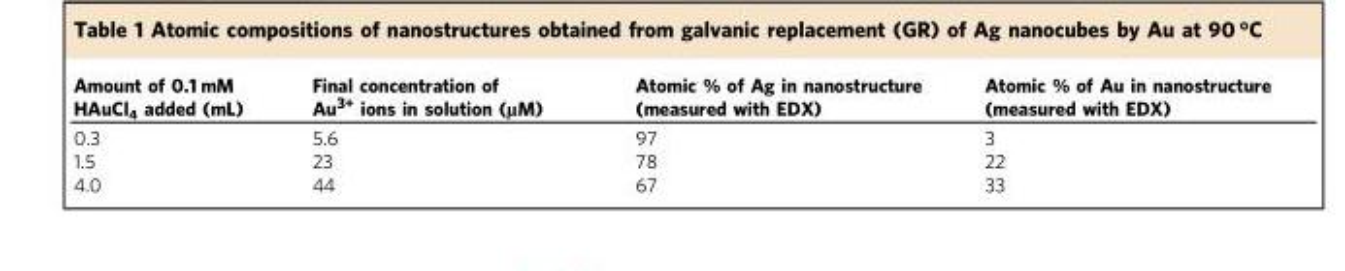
<table><thead><tr><td>Amount of 0.1 mM HAuCl<sub>4</sub> added (mL)</td><td>Final concentration of Au<sup>3+</sup> ions in solution (µM)</td><td>Atomic % of Ag in nanostructure (measured with EDX)</td><td>Atomic % of Au in nanostructure (measured with EDX)</td></tr></thead><tbody><tr><td>0.3</td><td>5.6</td><td>97</td><td>3</td></tr><tr><td>1.5</td><td>23</td><td>78</td><td>22</td></tr><tr><td>4.0</td><td>44</td><td>67</td><td>33</td></tr></tbody></table>